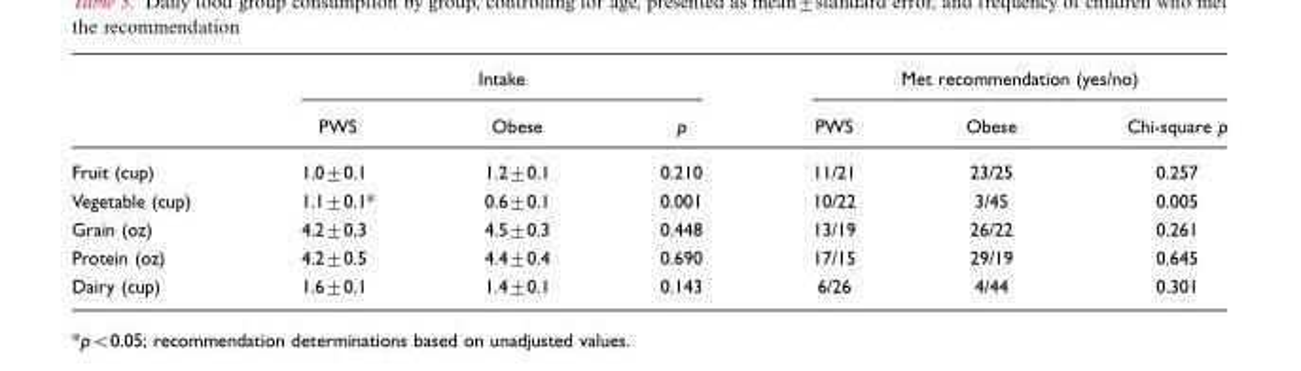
<table><thead><tr><td rowspan="2"></td><td colspan="3">Intake</td><td colspan="3">Met recommendation (yes/no)</td></tr><tr><td>PWS</td><td>Obese</td><td>p</td><td>PWS</td><td>Obese</td><td>Chi-square p</td></tr></thead><tbody><tr><td>Fruit (cup)</td><td>1.0±0.1</td><td>1.2±0.1</td><td>0.210</td><td>11/21</td><td>23/25</td><td>0.257</td></tr><tr><td>Vegetable (cup)</td><td>1.1±0.1*</td><td>0.6±0.1</td><td>0.001</td><td>10/22</td><td>3/45</td><td>0.005</td></tr><tr><td>Grain (oz)</td><td>4.2±0.3</td><td>4.5±0.3</td><td>0.448</td><td>13/19</td><td>26/22</td><td>0.261</td></tr><tr><td>Protein (oz)</td><td>4.2±0.5</td><td>4.4±0.4</td><td>0.690</td><td>17/15</td><td>29/19</td><td>0.645</td></tr><tr><td>Dairy (cup)</td><td>1.6±0.1</td><td>1.4±0.1</td><td>0.143</td><td>6/26</td><td>4/44</td><td>0.301</td></tr></tbody></table>